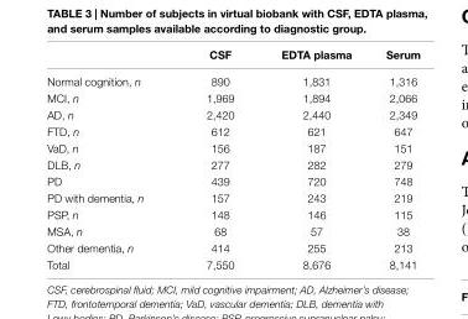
<table><thead><tr><td></td><td>csF</td><td>eDTa plasma</td><td>serum</td></tr></thead><tbody><tr><td>Normal cognition, n</td><td>890</td><td>1,831</td><td>1,316</td></tr><tr><td>MCI, n</td><td>1,969</td><td>1,894</td><td>2,066</td></tr><tr><td>AD, n</td><td>2,420</td><td>2,440</td><td>2,349</td></tr><tr><td>FTD, n</td><td>612</td><td>621</td><td>647</td></tr><tr><td>VaD, n</td><td>156</td><td>187</td><td>151</td></tr><tr><td>DLB, n</td><td>277</td><td>282</td><td>279</td></tr><tr><td>PD</td><td>439</td><td>720</td><td>748</td></tr><tr><td>PD with dementia, n</td><td>157</td><td>243</td><td>219</td></tr><tr><td>PSP, n</td><td>148</td><td>146</td><td>115</td></tr><tr><td>MSA, n</td><td>68</td><td>57</td><td>38</td></tr><tr><td>Other dementia, n</td><td>414</td><td>255</td><td>213</td></tr><tr><td>Total</td><td>7,550</td><td>8,676</td><td>8,141</td></tr></tbody></table>